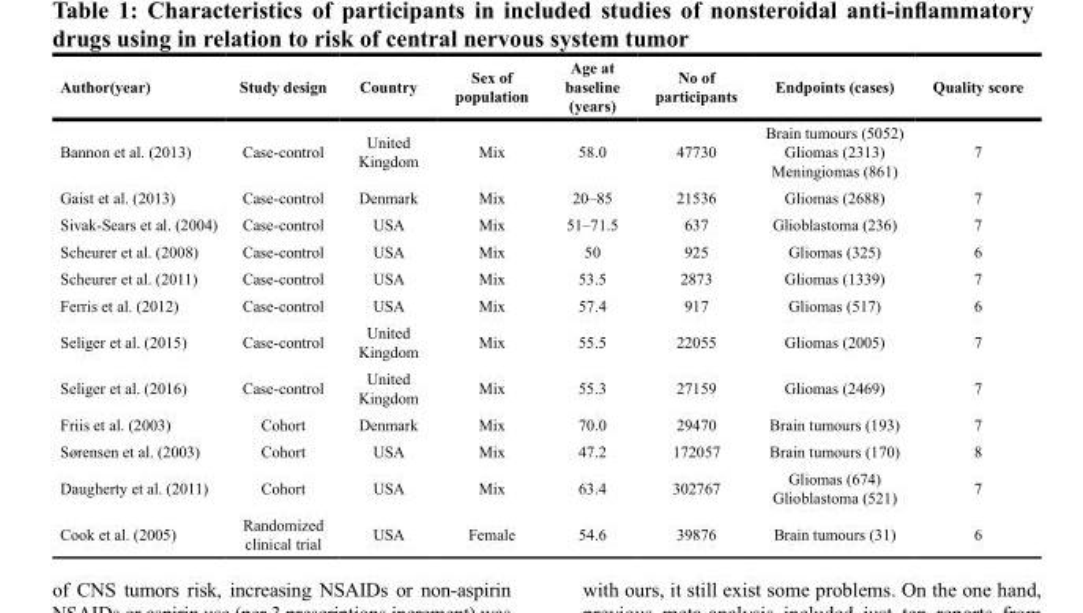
<table><thead><tr><td>Author(year)</td><td>Study design</td><td>Country</td><td>Sex of population</td><td>Age at baseline (years)</td><td>No of participants</td><td>Endpoints (cases)</td><td>Quality score</td></tr></thead><tbody><tr><td>Bannon et al. (2013)</td><td>Case-control</td><td>United Kingdom</td><td>Mix</td><td>58.0</td><td>47730</td><td>Brain tumours (5052) Gliomas (2313) Meningiomas (861)</td><td>7</td></tr><tr><td>Gaist et al. (2013)</td><td>Case-control</td><td>Denmark</td><td>Mix</td><td>20–85</td><td>21536</td><td>Gliomas (2688)</td><td>7</td></tr><tr><td>Sivak-Sears et al. (2004)</td><td>Case-control</td><td>USA</td><td>Mix</td><td>51–71.5</td><td>637</td><td>Glioblastoma (236)</td><td>7</td></tr><tr><td>Scheurer et al. (2008)</td><td>Case-control</td><td>USA</td><td>Mix</td><td>50</td><td>925</td><td>Gliomas (325)</td><td>6</td></tr><tr><td>Scheurer et al. (2011)</td><td>Case-control</td><td>USA</td><td>Mix</td><td>53.5</td><td>2873</td><td>Gliomas (1339)</td><td>7</td></tr><tr><td>Ferris et al. (2012)</td><td>Case-control</td><td>USA</td><td>Mix</td><td>57.4</td><td>917</td><td>Gliomas (517)</td><td>6</td></tr><tr><td>Seliger et al. (2015)</td><td>Case-control</td><td>United Kingdom</td><td>Mix</td><td>55.5</td><td>22055</td><td>Gliomas (2005)</td><td>7</td></tr><tr><td>Seliger et al. (2016)</td><td>Case-control</td><td>United Kingdom</td><td>Mix</td><td>55.3</td><td>27159</td><td>Gliomas (2469)</td><td>7</td></tr><tr><td>Friis et al. (2003)</td><td>Cohort</td><td>Denmark</td><td>Mix</td><td>70.0</td><td>29470</td><td>Brain tumours (193)</td><td>7</td></tr><tr><td>Sørensen et al. (2003)</td><td>Cohort</td><td>USA</td><td>Mix</td><td>47.2</td><td>172057</td><td>Brain tumours (170)</td><td>8</td></tr><tr><td>Daugherty et al. (2011)</td><td>Cohort</td><td>USA</td><td>Mix</td><td>63.4</td><td>302767</td><td>Gliomas (674) Glioblastoma (521)</td><td>7</td></tr><tr><td>Cook et al. (2005)</td><td>Randomized clinical trial</td><td>USA</td><td>Female</td><td>54.6</td><td>39876</td><td>Brain tumours (31)</td><td>6</td></tr></tbody></table>